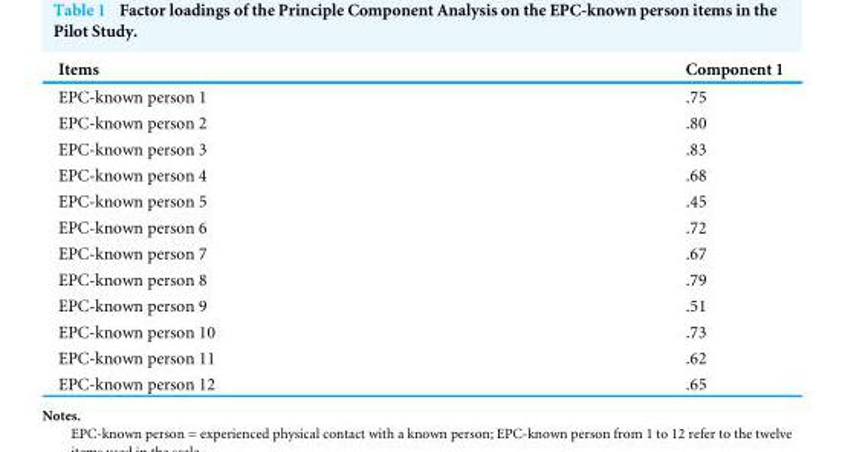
<table><thead><tr><td>Items</td><td>Component 1</td></tr></thead><tbody><tr><td>EPC-known person 1</td><td>.75</td></tr><tr><td>EPC-known person 2</td><td>.80</td></tr><tr><td>EPC-known person 3</td><td>.83</td></tr><tr><td>EPC-known person 4</td><td>.68</td></tr><tr><td>EPC-known person 5</td><td>.45</td></tr><tr><td>EPC-known person 6</td><td>.72</td></tr><tr><td>EPC-known person 7</td><td>.67</td></tr><tr><td>EPC-known person 8</td><td>.79</td></tr><tr><td>EPC-known person 9</td><td>.51</td></tr><tr><td>EPC-known person 10</td><td>.73</td></tr><tr><td>EPC-known person 11</td><td>.62</td></tr><tr><td>EPC-known person 12</td><td>.65</td></tr></tbody></table>